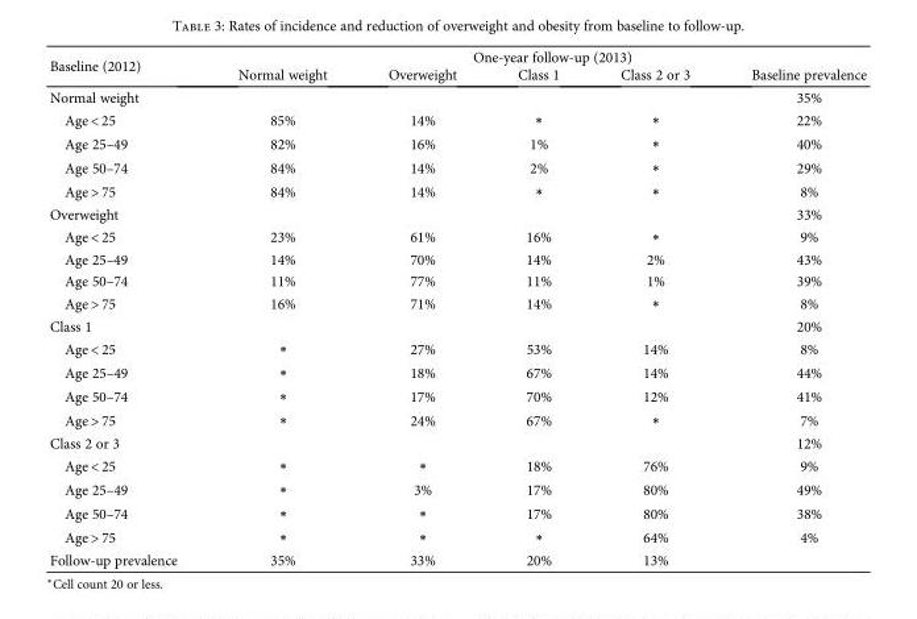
<table><thead><tr><td rowspan="2">Baseline (2012)</td><td colspan="5">One-year follow-up (2013)</td></tr><tr><td>Normal weight</td><td>Overweight</td><td>Class 1</td><td>Class 2 or 3</td><td>Baseline prevalence</td></tr></thead><tbody><tr><td>Normal weight</td><td></td><td></td><td></td><td></td><td>35%</td></tr><tr><td>Age &lt; 25</td><td>85%</td><td>14%</td><td>∗</td><td>∗</td><td>22%</td></tr><tr><td>Age 25–49</td><td>82%</td><td>16%</td><td>1%</td><td>∗</td><td>40%</td></tr><tr><td>Age 50–74</td><td>84%</td><td>14%</td><td>2%</td><td>∗</td><td>29%</td></tr><tr><td>Age &gt; 75</td><td>84%</td><td>14%</td><td>∗</td><td>∗</td><td>8%</td></tr><tr><td>Overweight</td><td></td><td></td><td></td><td></td><td>33%</td></tr><tr><td>Age &lt; 25</td><td>23%</td><td>61%</td><td>16%</td><td>∗</td><td>9%</td></tr><tr><td>Age 25–49</td><td>14%</td><td>70%</td><td>14%</td><td>2%</td><td>43%</td></tr><tr><td>Age 50–74</td><td>11%</td><td>77%</td><td>11%</td><td>1%</td><td>39%</td></tr><tr><td>Age &gt; 75</td><td>16%</td><td>71%</td><td>14%</td><td>∗</td><td>8%</td></tr><tr><td>Class 1</td><td></td><td></td><td></td><td></td><td>20%</td></tr><tr><td>Age &lt; 25</td><td>∗</td><td>27%</td><td>53%</td><td>14%</td><td>8%</td></tr><tr><td>Age 25–49</td><td>∗</td><td>18%</td><td>67%</td><td>14%</td><td>44%</td></tr><tr><td>Age 50–74</td><td>∗</td><td>17%</td><td>70%</td><td>12%</td><td>41%</td></tr><tr><td>Age &gt; 75</td><td>∗</td><td>24%</td><td>67%</td><td>∗</td><td>7%</td></tr><tr><td>Class 2 or 3</td><td></td><td></td><td></td><td></td><td>12%</td></tr><tr><td>Age &lt; 25</td><td>∗</td><td>∗</td><td>18%</td><td>76%</td><td>9%</td></tr><tr><td>Age 25–49</td><td>∗</td><td>3%</td><td>17%</td><td>80%</td><td>49%</td></tr><tr><td>Age 50–74</td><td>∗</td><td>∗</td><td>17%</td><td>80%</td><td>38%</td></tr><tr><td>Age &gt; 75</td><td>∗</td><td>∗</td><td>∗</td><td>64%</td><td>4%</td></tr><tr><td>Follow-up prevalence</td><td>35%</td><td>33%</td><td>20%</td><td>13%</td><td></td></tr></tbody></table>